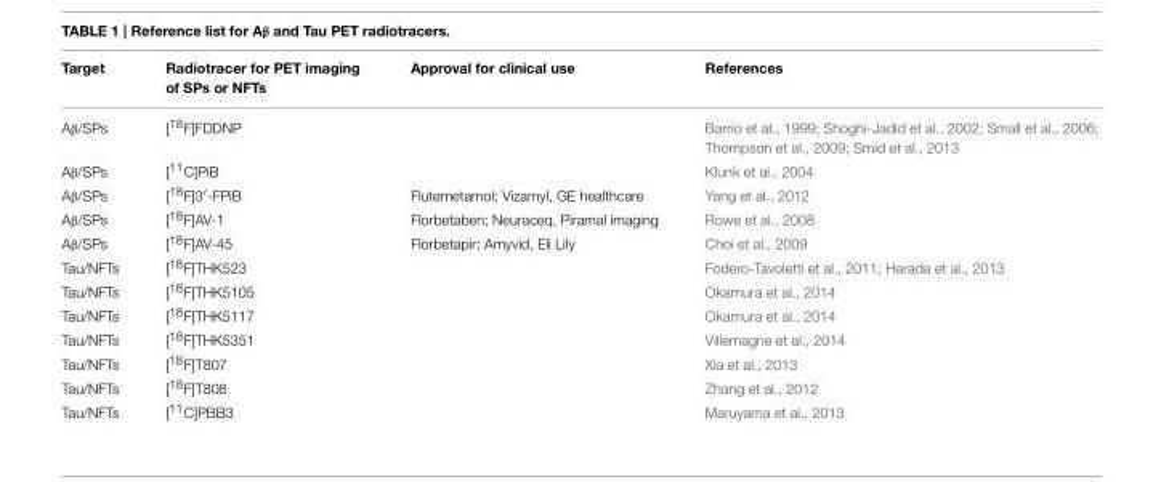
<table><thead><tr><td>Target</td><td>Radiotracer for PET imaging of SPs or NFTs</td><td>Approval for clinical use</td><td>References</td></tr></thead><tbody><tr><td>Aβ/SPs</td><td>[<sup>18</sup>F]FDDNP</td><td></td><td>Barrio et al., 1999; Shoghi-Jadid et al., 2002; Small et al., 2006; Thompson et al., 2009; Smid et al., 2013</td></tr><tr><td>Aβ/SPs</td><td>[<sup>11</sup>C]PiB</td><td></td><td>Klunk et al., 2004</td></tr><tr><td>Aβ/SPs</td><td>[<sup>18</sup>F]3′-FPiB</td><td>Flutemetamol; Vizamyl, GE healthcare</td><td>Yang et al., 2012</td></tr><tr><td>Aβ/SPs</td><td>[<sup>18</sup>F]AV-1</td><td>Florbetaben; Neuraceq, Piramal imaging</td><td>Rowe et al., 2008</td></tr><tr><td>Aβ/SPs</td><td>[<sup>18</sup>F]AV-45</td><td>Florbetapir; Amyvid, Eli Lily</td><td>Choi et al., 2009</td></tr><tr><td>Tau/NFTs</td><td>[<sup>18</sup>F]THK523</td><td></td><td>Fodero-Tavoletti et al., 2011; Harada et al., 2013</td></tr><tr><td>Tau/NFTs</td><td>[<sup>18</sup>F]THK5105</td><td></td><td>Okamura et al., 2014</td></tr><tr><td>Tau/NFTs</td><td>[<sup>18</sup>F]THK5117</td><td></td><td>Okamura et al., 2014</td></tr><tr><td>Tau/NFTs</td><td>[<sup>18</sup>F]THK5351</td><td></td><td>Villemagne et al., 2014</td></tr><tr><td>Tau/NFTs</td><td>[<sup>18</sup>F]T807</td><td></td><td>Xia et al., 2013</td></tr><tr><td>Tau/NFTs</td><td>[<sup>18</sup>F]T808</td><td></td><td>Zhang et al., 2012</td></tr><tr><td>Tau/NFTs</td><td>[<sup>11</sup>C]PBB3</td><td></td><td>Maruyama et al., 2013</td></tr></tbody></table>